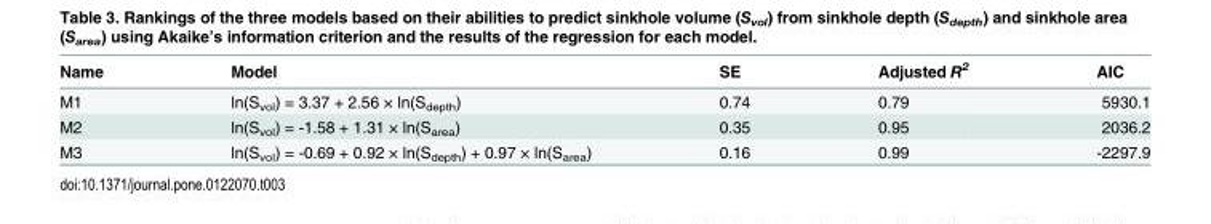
<table><thead><tr><td>Name</td><td>Model</td><td>SE</td><td>Adjusted R<sup>2</sup></td><td>AIC</td></tr></thead><tbody><tr><td>M1</td><td>ln(S<sub>vol</sub>) = 3.37 + 2.56 × ln(S<sub>depth</sub>)</td><td>0.74</td><td>0.79</td><td>5930.1</td></tr><tr><td>M2</td><td>ln(S<sub>vol</sub>) = -1.58 + 1.31 × ln(S<sub>area</sub>)</td><td>0.35</td><td>0.95</td><td>2036.2</td></tr><tr><td>M3</td><td>ln(S<sub>vol</sub>) = -0.69 + 0.92 × ln(S<sub>depth</sub>) + 0.97 × ln(S<sub>area</sub>)</td><td>0.16</td><td>0.99</td><td>-2297.9</td></tr></tbody></table>